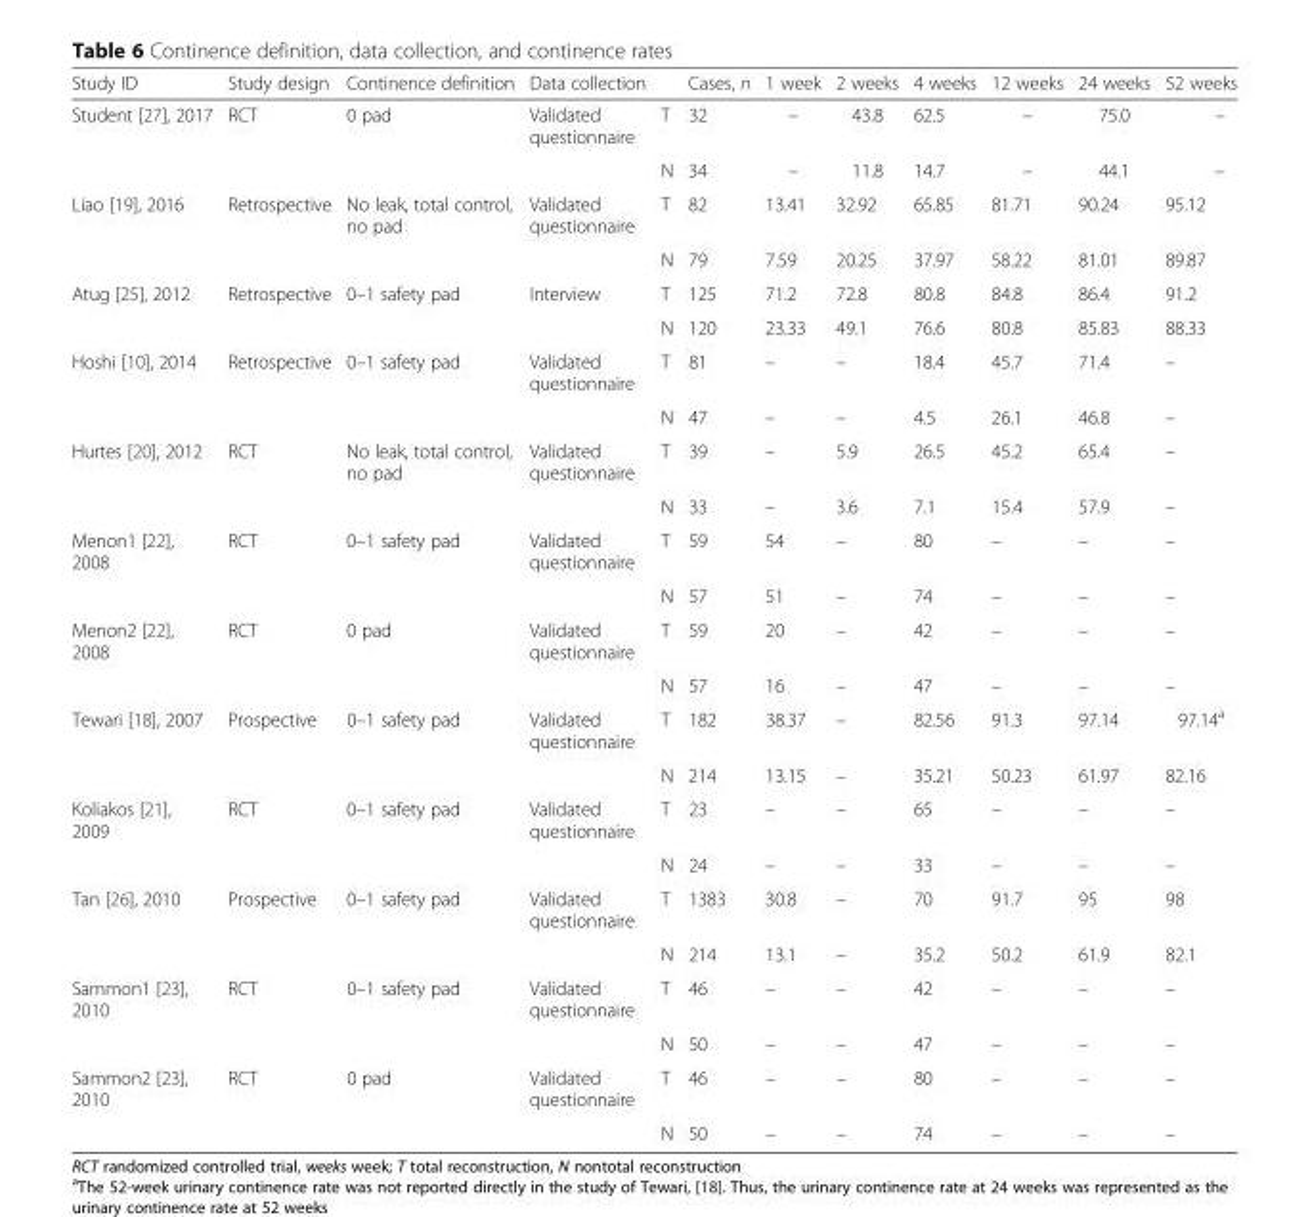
<table><thead><tr><td>Study ID</td><td>Study design</td><td>Continence definition</td><td>Data collection</td><td></td><td>Cases, n</td><td>1 week</td><td>2 weeks</td><td>4 weeks</td><td>12 weeks</td><td>24 weeks</td><td>52 weeks</td></tr></thead><tbody><tr><td rowspan="2">Student [27], 2017</td><td>RCT</td><td>0 pad</td><td>Validated questionnaire</td><td>T</td><td>32</td><td>–</td><td>43.8</td><td>62.5</td><td>–</td><td>75.0</td><td>–</td></tr><tr><td></td><td></td><td></td><td>N</td><td>34</td><td>–</td><td>11.8</td><td>14.7</td><td>–</td><td>44.1</td><td>–</td></tr><tr><td rowspan="2">Liao [19], 2016</td><td>Retrospective</td><td>No leak, total control, no pad</td><td>Validated questionnaire</td><td>T</td><td>82</td><td>13.41</td><td>32.92</td><td>65.85</td><td>81.71</td><td>90.24</td><td>95.12</td></tr><tr><td></td><td></td><td></td><td>N</td><td>79</td><td>7.59</td><td>20.25</td><td>37.97</td><td>58.22</td><td>81.01</td><td>89.87</td></tr><tr><td rowspan="2">Atug [25], 2012</td><td>Retrospective</td><td>0–1 safety pad</td><td>Interview</td><td>T</td><td>125</td><td>71.2</td><td>72.8</td><td>80.8</td><td>84.8</td><td>86.4</td><td>91.2</td></tr><tr><td></td><td></td><td></td><td>N</td><td>120</td><td>23.33</td><td>49.1</td><td>76.6</td><td>80.8</td><td>85.83</td><td>88.33</td></tr><tr><td rowspan="2">Hoshi [10], 2014</td><td>Retrospective</td><td>0–1 safety pad</td><td>Validated questionnaire</td><td>T</td><td>81</td><td>–</td><td>–</td><td>18.4</td><td>45.7</td><td>71.4</td><td>–</td></tr><tr><td></td><td></td><td></td><td>N</td><td>47</td><td>–</td><td>–</td><td>4.5</td><td>26.1</td><td>46.8</td><td>–</td></tr><tr><td rowspan="2">Hurtes [20], 2012</td><td>RCT</td><td>No leak, total control, no pad</td><td>Validated questionnaire</td><td>T</td><td>39</td><td>–</td><td>5.9</td><td>26.5</td><td>45.2</td><td>65.4</td><td>–</td></tr><tr><td></td><td></td><td></td><td>N</td><td>33</td><td>–</td><td>3.6</td><td>7.1</td><td>15.4</td><td>57.9</td><td>–</td></tr><tr><td rowspan="2">Menon1 [22], 2008</td><td>RCT</td><td>0–1 safety pad</td><td>Validated questionnaire</td><td>T</td><td>59</td><td>54</td><td>–</td><td>80</td><td>–</td><td>–</td><td>–</td></tr><tr><td></td><td></td><td></td><td>N</td><td>57</td><td>51</td><td>–</td><td>74</td><td>–</td><td>–</td><td>–</td></tr><tr><td rowspan="2">Menon2 [22], 2008</td><td>RCT</td><td>0 pad</td><td>Validated questionnaire</td><td>T</td><td>59</td><td>20</td><td>–</td><td>42</td><td>–</td><td>–</td><td>–</td></tr><tr><td></td><td></td><td></td><td>N</td><td>57</td><td>16</td><td>–</td><td>47</td><td>–</td><td>–</td><td>–</td></tr><tr><td rowspan="2">Tewari [18], 2007</td><td>Prospective</td><td>0–1 safety pad</td><td>Validated questionnaire</td><td>T</td><td>182</td><td>38.37</td><td>–</td><td>82.56</td><td>91.3</td><td>97.14</td><td>97.14<sup>a</sup></td></tr><tr><td></td><td></td><td></td><td>N</td><td>214</td><td>13.15</td><td>–</td><td>35.21</td><td>50.23</td><td>61.97</td><td>82.16</td></tr><tr><td rowspan="2">Koliakos [21], 2009</td><td>RCT</td><td>0–1 safety pad</td><td>Validated questionnaire</td><td>T</td><td>23</td><td>–</td><td>–</td><td>65</td><td>–</td><td>–</td><td>–</td></tr><tr><td></td><td></td><td></td><td>N</td><td>24</td><td>–</td><td>–</td><td>33</td><td>–</td><td>–</td><td>–</td></tr><tr><td rowspan="2">Tan [26], 2010</td><td>Prospective</td><td>0–1 safety pad</td><td>Validated questionnaire</td><td>T</td><td>1383</td><td>30.8</td><td>–</td><td>70</td><td>91.7</td><td>95</td><td>98</td></tr><tr><td></td><td></td><td></td><td>N</td><td>214</td><td>13.1</td><td>–</td><td>35.2</td><td>50.2</td><td>61.9</td><td>82.1</td></tr><tr><td rowspan="2">Sammon1 [23], 2010</td><td>RCT</td><td>0–1 safety pad</td><td>Validated questionnaire</td><td>T</td><td>46</td><td>–</td><td>–</td><td>42</td><td>–</td><td>–</td><td>–</td></tr><tr><td></td><td></td><td></td><td>N</td><td>50</td><td>–</td><td>–</td><td>47</td><td>–</td><td>–</td><td>–</td></tr><tr><td rowspan="2">Sammon2 [23], 2010</td><td>RCT</td><td>0 pad</td><td>Validated questionnaire</td><td>T</td><td>46</td><td>–</td><td>–</td><td>80</td><td>–</td><td>–</td><td>–</td></tr><tr><td></td><td></td><td></td><td>N</td><td>50</td><td>–</td><td>–</td><td>74</td><td>–</td><td>–</td><td>–</td></tr></tbody></table>